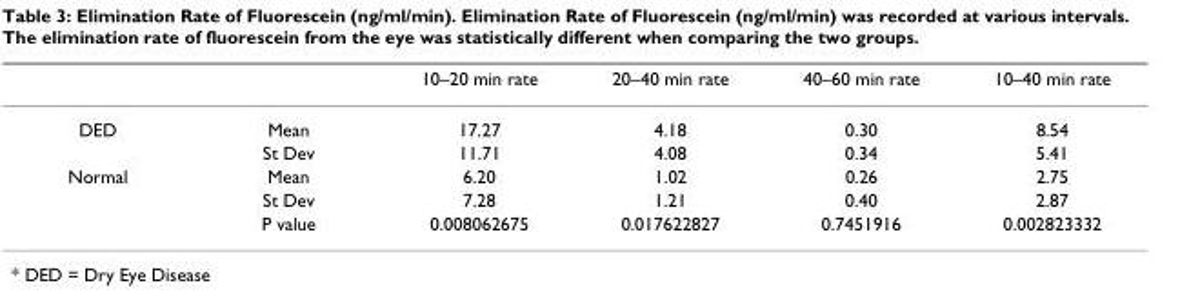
<table><thead><tr><td></td><td></td><td>10–20 min rate</td><td>20–40 min rate</td><td>40–60 min rate</td><td>10–40 min rate</td></tr></thead><tbody><tr><td rowspan="2">DED</td><td>Mean</td><td>17.27</td><td>4.18</td><td>0.30</td><td>8.54</td></tr><tr><td>St Dev</td><td>11.71</td><td>4.08</td><td>0.34</td><td>5.41</td></tr><tr><td rowspan="3">Normal</td><td>Mean</td><td>6.20</td><td>1.02</td><td>0.26</td><td>2.75</td></tr><tr><td>St Dev</td><td>7.28</td><td>1.21</td><td>0.40</td><td>2.87</td></tr><tr><td>P value</td><td>0.008062675</td><td>0.017622827</td><td>0.7451916</td><td>0.002823332</td></tr></tbody></table>